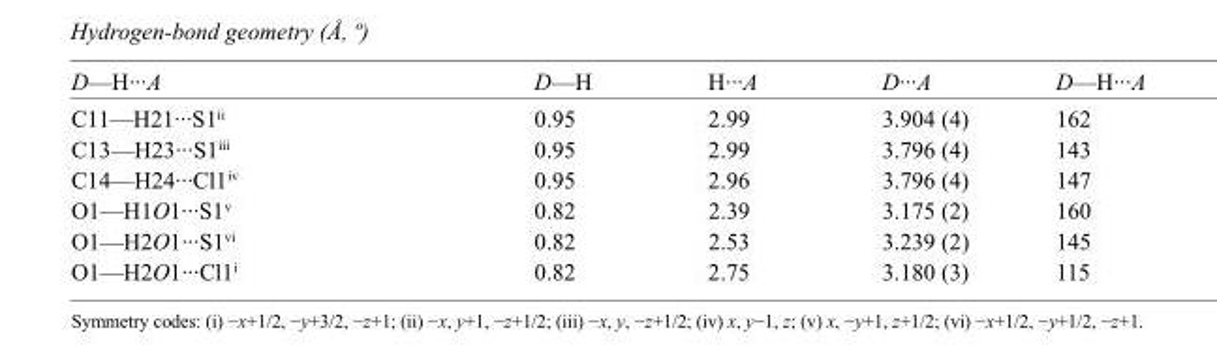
<table><tbody><tr><td>D—H···A</td><td>D—H</td><td>H···A</td><td>D···A</td><td>D—H···A</td></tr><tr><td>C11—H21···S1<sup>ii</sup></td><td>0.95</td><td>2.99</td><td>3.904 (4)</td><td>162</td></tr><tr><td>C13—H23···S1<sup>iii</sup></td><td>0.95</td><td>2.99</td><td>3.796 (4)</td><td>143</td></tr><tr><td>C14—H24···Cl1<sup>iv</sup></td><td>0.95</td><td>2.96</td><td>3.796 (4)</td><td>147</td></tr><tr><td>O1—H1O1···S1<sup>v</sup></td><td>0.82</td><td>2.39</td><td>3.175 (2)</td><td>160</td></tr><tr><td>O1—H2O1···S1<sup>vi</sup></td><td>0.82</td><td>2.53</td><td>3.239 (2)</td><td>145</td></tr><tr><td>O1—H2O1···Cl1<sup>i</sup></td><td>0.82</td><td>2.75</td><td>3.180 (3)</td><td>115</td></tr></tbody></table>